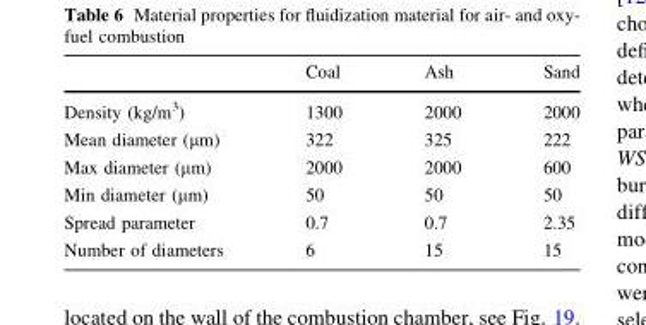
<table><thead><tr><td></td><td>Coal</td><td>Ash</td><td>Sand</td></tr></thead><tbody><tr><td>Density (kg/m<sup>3</sup>)</td><td>1300</td><td>2000</td><td>2000</td></tr><tr><td>Mean diameter (μm)</td><td>322</td><td>325</td><td>222</td></tr><tr><td>Max diameter (μm)</td><td>2000</td><td>2000</td><td>600</td></tr><tr><td>Min diameter (μm)</td><td>50</td><td>50</td><td>50</td></tr><tr><td>Spread parameter</td><td>0.7</td><td>0.7</td><td>2.35</td></tr><tr><td>Number of diameters</td><td>6</td><td>15</td><td>15</td></tr></tbody></table>